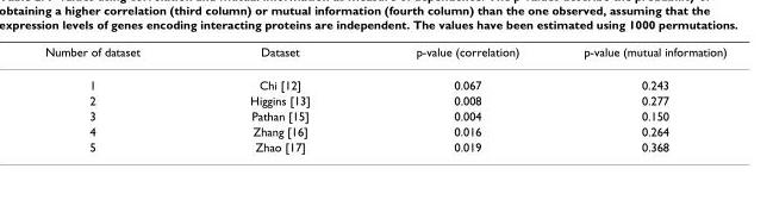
<table><thead><tr><td>Number of dataset</td><td>Dataset</td><td>p-value (correlation)</td><td>p-value (mutual information)</td></tr></thead><tbody><tr><td>1</td><td>Chi [12]</td><td>0.067</td><td>0.243</td></tr><tr><td>2</td><td>Higgins [13]</td><td>0.008</td><td>0.277</td></tr><tr><td>3</td><td>Pathan [15]</td><td>0.004</td><td>0.150</td></tr><tr><td>4</td><td>Zhang [16]</td><td>0.016</td><td>0.264</td></tr><tr><td>5</td><td>Zhao [17]</td><td>0.019</td><td>0.368</td></tr></tbody></table>